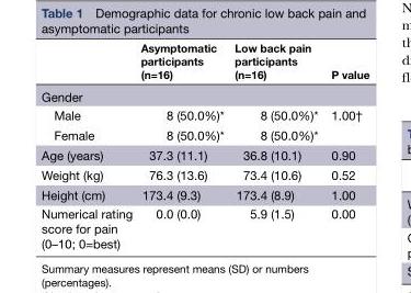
<table><thead><tr><td></td><td>Asymptomatic participants (n=16)</td><td>Low back pain participants (n=16)</td><td>P value</td></tr></thead><tbody><tr><td colspan="4">Gender</td></tr><tr><td>Male</td><td>8 (50.0%)*</td><td>8 (50.0%)*</td><td rowspan="2">1.00†</td></tr><tr><td>Female</td><td>8 (50.0%)*</td><td>8 (50.0%)*</td></tr><tr><td>Age (years)</td><td>37.3 (11.1)</td><td>36.8 (10.1)</td><td>0.90</td></tr><tr><td>Weight (kg)</td><td>76.3 (13.6)</td><td>73.4 (10.6)</td><td>0.52</td></tr><tr><td>Height (cm)</td><td>173.4 (9.3)</td><td>173.4 (8.9)</td><td>1.00</td></tr><tr><td>Numerical rating score for pain (0–10; 0=best)</td><td>0.0 (0.0)</td><td>5.9 (1.5)</td><td>0.00</td></tr></tbody></table>